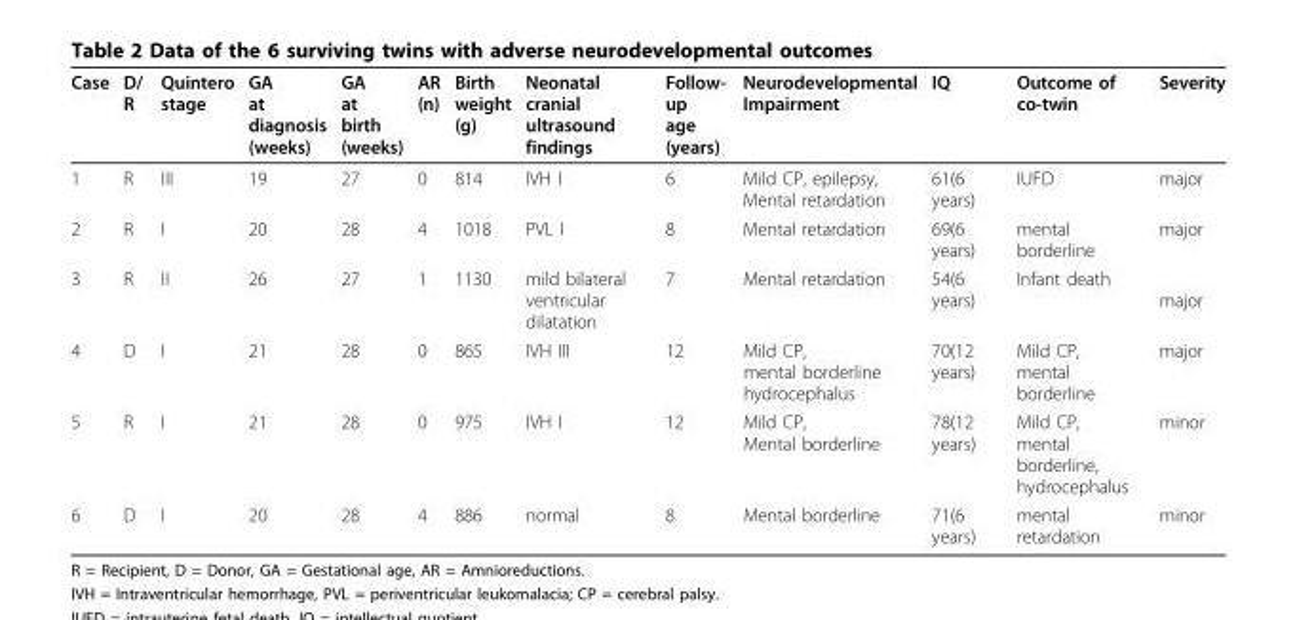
<table><thead><tr><td>Case</td><td>D/ R</td><td>Quintero stage</td><td>GA at diagnosis (weeks)</td><td>GA at birth (weeks)</td><td>AR (n)</td><td>Birth weight (g)</td><td>Neonatal cranial ultrasound findings</td><td>Follow- up age (years)</td><td>Neurodevelopmental Impairment</td><td>IQ</td><td>Outcome of co-twin</td><td>Severity</td></tr></thead><tbody><tr><td>1</td><td>R</td><td>III</td><td>19</td><td>27</td><td>0</td><td>814</td><td>IVH I</td><td>6</td><td>Mild CP, epilepsy, Mental retardation</td><td>61(6 years)</td><td>IUFD</td><td>major</td></tr><tr><td>2</td><td>R</td><td>I</td><td>20</td><td>28</td><td>4</td><td>1018</td><td>PVL І</td><td>8</td><td>Mental retardation</td><td>69(6 years)</td><td>mental borderline</td><td>major</td></tr><tr><td>3</td><td>R</td><td>II</td><td>26</td><td>27</td><td>1</td><td>1130</td><td>mild bilateral ventricular dilatation</td><td>7</td><td>Mental retardation</td><td>54(6 years)</td><td>Infant death</td><td>major</td></tr><tr><td>4</td><td>D</td><td>I</td><td>21</td><td>28</td><td>0</td><td>865</td><td>IVH III</td><td>12</td><td>Mild CP, mental borderline hydrocephalus</td><td>70(12 years)</td><td>Mild CP, mental borderline</td><td>major</td></tr><tr><td>5</td><td>R</td><td>I</td><td>21</td><td>28</td><td>0</td><td>975</td><td>IVH I</td><td>12</td><td>Mild CP, Mental borderline</td><td>78(12 years)</td><td>Mild CP, mental borderline, hydrocephalus</td><td>minor</td></tr><tr><td>6</td><td>D</td><td>I</td><td>20</td><td>28</td><td>4</td><td>886</td><td>normal</td><td>8</td><td>Mental borderline</td><td>71(6 years)</td><td>mental retardation</td><td>minor</td></tr></tbody></table>